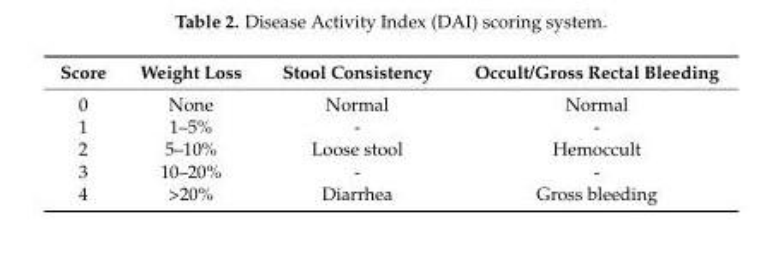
<table><thead><tr><td>Score</td><td>Weight Loss</td><td>Stool Consistency</td><td>Occult/Gross Rectal Bleeding</td></tr></thead><tbody><tr><td>0</td><td>None</td><td>Normal</td><td>Normal</td></tr><tr><td>1</td><td>1–5%</td><td>-</td><td>-</td></tr><tr><td>2</td><td>5–10%</td><td>Loose stool</td><td>Hemoccult</td></tr><tr><td>3</td><td>10–20%</td><td>-</td><td>-</td></tr><tr><td>4</td><td>&gt;20%</td><td>Diarrhea</td><td>Gross bleeding</td></tr></tbody></table>